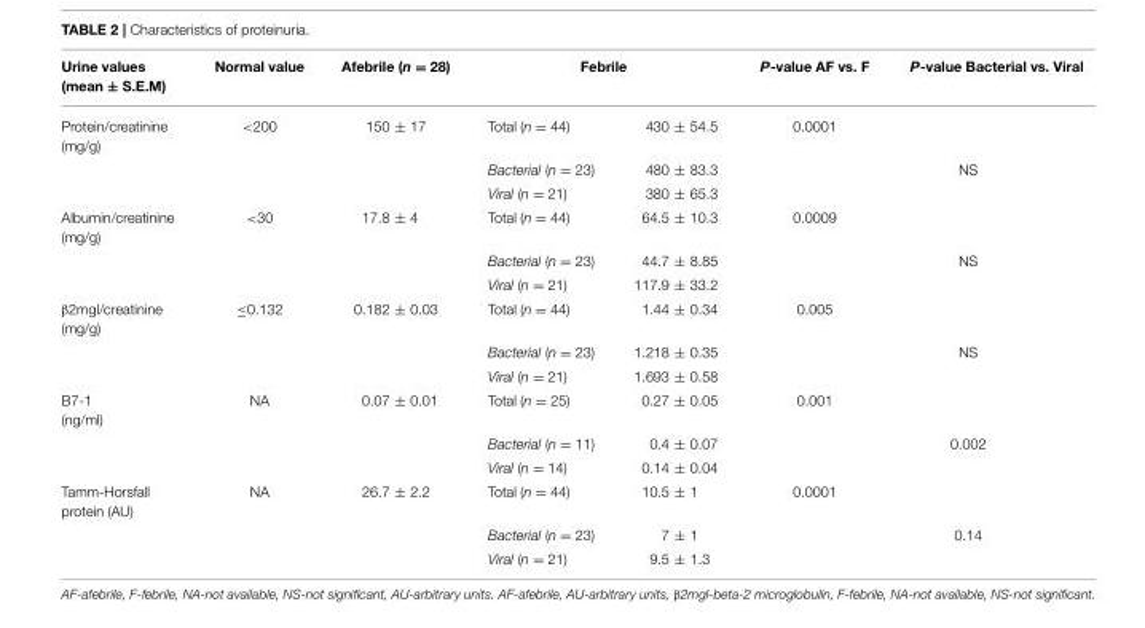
<table><thead><tr><td rowspan="2">Urine values (mean ± S.E.M) Protein/creatinine (mg/g)</td><td rowspan="2">Normal value &lt;200</td><td rowspan="2">Afebrile (n = 28) 150 ± 17</td><td colspan="2">Febrile</td><td rowspan="2">P-value AF vs. F 0.0001</td><td rowspan="2">P-value Bacterial vs. Viral</td></tr><tr><td>Total (n = 44)</td><td>430 ± 54.5</td></tr></thead><tbody><tr><td></td><td></td><td></td><td>Bacterial (n = 23)</td><td>480 ± 83.3</td><td></td><td>NS</td></tr><tr><td></td><td></td><td></td><td>Viral (n = 21)</td><td>380 ± 65.3</td><td></td><td></td></tr><tr><td rowspan="3">Albumin/creatinine (mg/g)</td><td>&lt;30</td><td>17.8 ± 4</td><td>Total (n = 44)</td><td>64.5 ± 10.3</td><td>0.0009</td><td></td></tr><tr><td></td><td></td><td>Bacterial (n = 23)</td><td>44.7 ± 8.85</td><td></td><td>NS</td></tr><tr><td></td><td></td><td>Viral (n = 21)</td><td>117.9 ± 33.2</td><td></td><td></td></tr><tr><td rowspan="3">β2mgl/creatinine (mg/g)</td><td>≤0.132</td><td>0.182 ± 0.03</td><td>Total (n = 44)</td><td>1.44 ± 0.34</td><td>0.005</td><td></td></tr><tr><td></td><td></td><td>Bacterial (n = 23)</td><td>1.218 ± 0.35</td><td></td><td>NS</td></tr><tr><td></td><td></td><td>Viral (n = 21)</td><td>1.693 ± 0.58</td><td></td><td></td></tr><tr><td rowspan="3">B7-1 (ng/ml)</td><td>NA</td><td>0.07 ± 0.01</td><td>Total (n = 25)</td><td>0.27 ± 0.05</td><td>0.001</td><td></td></tr><tr><td></td><td></td><td>Bacterial (n = 11)</td><td>0.4 ± 0.07</td><td></td><td>0.002</td></tr><tr><td></td><td></td><td>Viral (n = 14)</td><td>0.14 ± 0.04</td><td></td><td></td></tr><tr><td rowspan="3">Tamm-Horsfall protein (AU)</td><td>NA</td><td>26.7 ± 2.2</td><td>Total (n = 44)</td><td>10.5 ± 1</td><td>0.0001</td><td></td></tr><tr><td></td><td></td><td>Bacterial (n = 23)</td><td>7 ± 1</td><td></td><td>0.14</td></tr><tr><td></td><td></td><td>Viral (n = 21)</td><td>9.5 ± 1.3</td><td></td><td></td></tr></tbody></table>